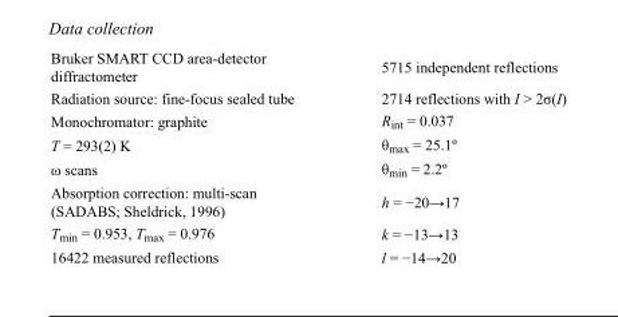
<table><tbody><tr><td>Bruker SMART CCD area-detector diffractometer</td><td>5715 independent reflections</td></tr><tr><td>Radiation source: fine-focus sealed tube</td><td>2714 reflections with I &gt; 2σ(I)</td></tr><tr><td>Monochromator: graphite</td><td>R<sub>int</sub> = 0.037</td></tr><tr><td>T = 293(2) K</td><td>θ<sub>max</sub> = 25.1º</td></tr><tr><td>ω scans</td><td>θ<sub>min</sub> = 2.2º</td></tr><tr><td>Absorption correction: multi-scan (SADABS; Sheldrick, 1996)</td><td>h = −20→17</td></tr><tr><td>T<sub>min</sub> = 0.953, T<sub>max</sub> = 0.976</td><td>k = −13→13</td></tr><tr><td>16422 measured reflections</td><td>l = −14→20</td></tr></tbody></table>